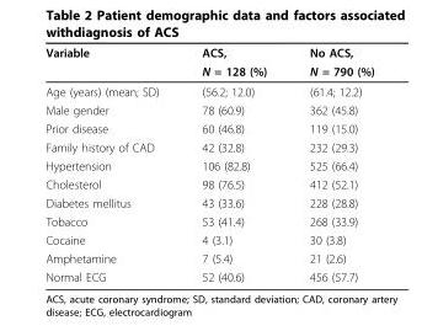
<table><thead><tr><td rowspan="2">Variable</td><td rowspan="2">ACS, N = 128 (%)</td><td rowspan="2">No ACS, N = 790 (%)</td></tr><tr></tr></thead><tbody><tr><td>Age (years) (mean; SD)</td><td>(56.2; 12.0)</td><td>(61.4; 12.2)</td></tr><tr><td>Male gender</td><td>78 (60.9)</td><td>362 (45.8)</td></tr><tr><td>Prior disease</td><td>60 (46.8)</td><td>119 (15.0)</td></tr><tr><td>Family history of CAD</td><td>42 (32.8)</td><td>232 (29.3)</td></tr><tr><td>Hypertension</td><td>106 (82.8)</td><td>525 (66.4)</td></tr><tr><td>Cholesterol</td><td>98 (76.5)</td><td>412 (52.1)</td></tr><tr><td>Diabetes mellitus</td><td>43 (33.6)</td><td>228 (28.8)</td></tr><tr><td>Tobacco</td><td>53 (41.4)</td><td>268 (33.9)</td></tr><tr><td>Cocaine</td><td>4 (3.1)</td><td>30 (3.8)</td></tr><tr><td>Amphetamine</td><td>7 (5.4)</td><td>21 (2.6)</td></tr><tr><td>Normal ECG</td><td>52 (40.6)</td><td>456 (57.7)</td></tr></tbody></table>